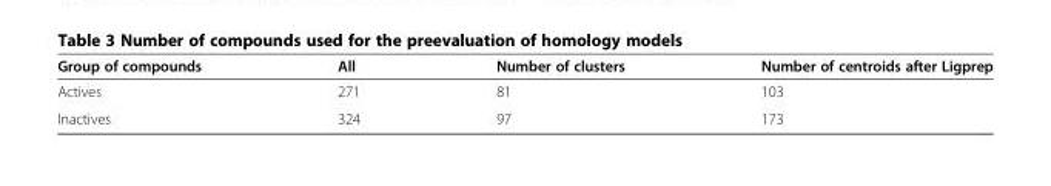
<table><thead><tr><td>Group of compounds</td><td>All</td><td>Number of clusters</td><td>Number of centroids after Ligprep</td></tr></thead><tbody><tr><td>Actives</td><td>271</td><td>81</td><td>103</td></tr><tr><td>Inactives</td><td>324</td><td>97</td><td>173</td></tr></tbody></table>